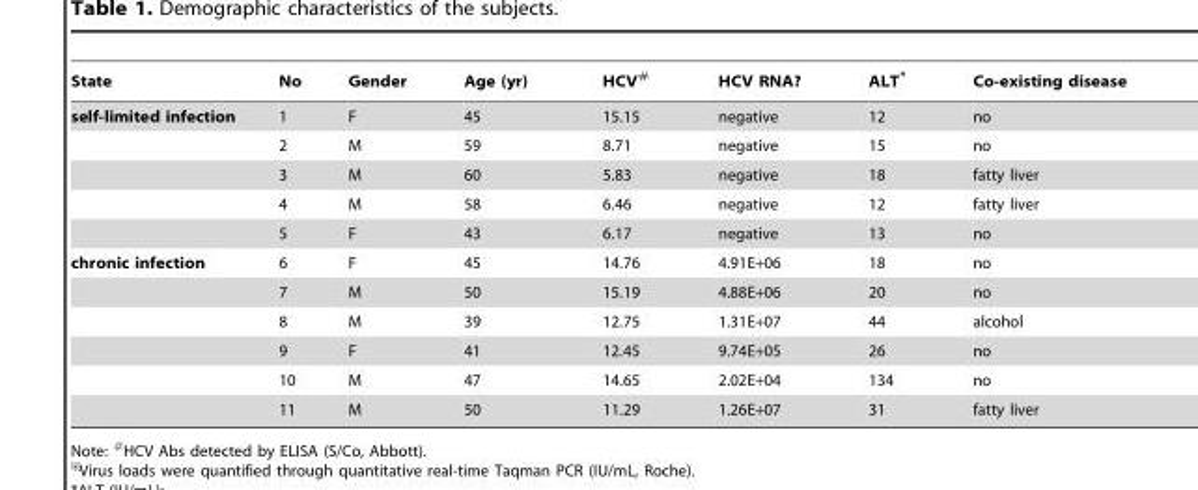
<table><thead><tr><td>State</td><td>No</td><td>Gender</td><td>Age (yr)</td><td>HCV<sup>#</sup></td><td>HCV RNA?</td><td>ALT*</td><td>Co-existing disease</td></tr></thead><tbody><tr><td rowspan="5">self-limited infection</td><td>1</td><td>F</td><td>45</td><td>15.15</td><td>negative</td><td>12</td><td>no</td></tr><tr><td>2</td><td>M</td><td>59</td><td>8.71</td><td>negative</td><td>15</td><td>no</td></tr><tr><td>3</td><td>M</td><td>60</td><td>5.83</td><td>negative</td><td>18</td><td>fatty liver</td></tr><tr><td>4</td><td>M</td><td>58</td><td>6.46</td><td>negative</td><td>12</td><td>fatty liver</td></tr><tr><td>5</td><td>F</td><td>43</td><td>6.17</td><td>negative</td><td>13</td><td>no</td></tr><tr><td rowspan="6">chronic infection</td><td>6</td><td>F</td><td>45</td><td>14.76</td><td>4.91E+06</td><td>18</td><td>no</td></tr><tr><td>7</td><td>M</td><td>50</td><td>15.19</td><td>4.88E+06</td><td>20</td><td>no</td></tr><tr><td>8</td><td>M</td><td>39</td><td>12.75</td><td>1.31E+07</td><td>44</td><td>alcohol</td></tr><tr><td>9</td><td>F</td><td>41</td><td>12.45</td><td>9.74E+05</td><td>26</td><td>no</td></tr><tr><td>10</td><td>M</td><td>47</td><td>14.65</td><td>2.02E+04</td><td>134</td><td>no</td></tr><tr><td>11</td><td>M</td><td>50</td><td>11.29</td><td>1.26E+07</td><td>31</td><td>fatty liver</td></tr></tbody></table>